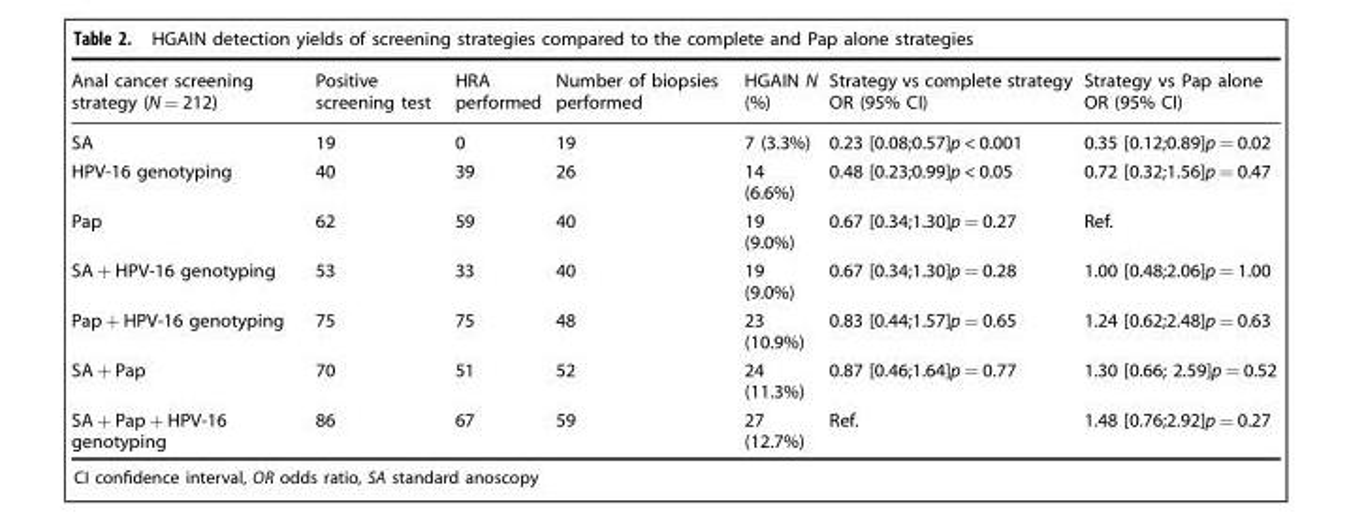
<table><thead><tr><td>Anal cancer screening strategy (N = 212)</td><td>Positive screening test</td><td>HRA performed</td><td>Number of biopsies performed</td><td>HGAIN N (%)</td><td>Strategy vs complete strategy OR (95% CI)</td><td>Strategy vs Pap alone OR (95% CI)</td></tr></thead><tbody><tr><td>SA</td><td>19</td><td>0</td><td>19</td><td>7 (3.3%)</td><td>0.23 [0.08;0.57]p &lt; 0.001</td><td>0.35 [0.12;0.89]p = 0.02</td></tr><tr><td>HPV-16 genotyping</td><td>40</td><td>39</td><td>26</td><td>14 (6.6%)</td><td>0.48 [0.23;0.99]p &lt; 0.05</td><td>0.72 [0.32;1.56]p = 0.47</td></tr><tr><td>Pap</td><td>62</td><td>59</td><td>40</td><td>19 (9.0%)</td><td>0.67 [0.34;1.30]p = 0.27</td><td>Ref.</td></tr><tr><td>SA + HPV-16 genotyping</td><td>53</td><td>33</td><td>40</td><td>19 (9.0%)</td><td>0.67 [0.34;1.30]p = 0.28</td><td>1.00 [0.48;2.06]p = 1.00</td></tr><tr><td>Pap + HPV-16 genotyping</td><td>75</td><td>75</td><td>48</td><td>23 (10.9%)</td><td>0.83 [0.44;1.57]p = 0.65</td><td>1.24 [0.62;2.48]p = 0.63</td></tr><tr><td>SA + Pap</td><td>70</td><td>51</td><td>52</td><td>24 (11.3%)</td><td>0.87 [0.46;1.64]p = 0.77</td><td>1.30 [0.66; 2.59]p = 0.52</td></tr><tr><td>SA + Pap + HPV-16 genotyping</td><td>86</td><td>67</td><td>59</td><td>27 (12.7%)</td><td>Ref.</td><td>1.48 [0.76;2.92]p = 0.27</td></tr></tbody></table>